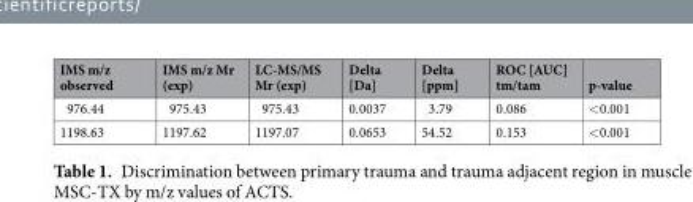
<table><thead><tr><td>IMS m/z observed</td><td>IMS m/z Mr (exp)</td><td>LC-MS/MS Mr (exp)</td><td>Delta [Da]</td><td>Delta [ppm]</td><td>ROC [AUC] tm/tam</td><td>p-value</td></tr></thead><tbody><tr><td>976.44</td><td>975.43</td><td>975.43</td><td>0.0037</td><td>3.79</td><td>0.086</td><td>&lt;0.001</td></tr><tr><td>1198.63</td><td>1197.62</td><td>1197.07</td><td>0.0653</td><td>54.52</td><td>0.153</td><td>&lt;0.001</td></tr></tbody></table>